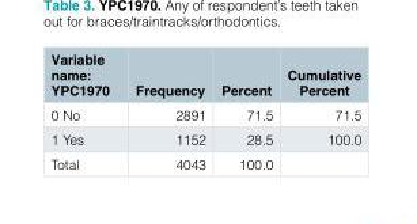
<table><thead><tr><td>Variable name: YPC1970</td><td>Frequency</td><td>Percent</td><td>Cumulative Percent</td></tr></thead><tbody><tr><td>0 No</td><td>2891</td><td>71.5</td><td>71.5</td></tr><tr><td>1 Yes</td><td>1152</td><td>28.5</td><td>100.0</td></tr><tr><td>Total</td><td>4043</td><td>100.0</td><td></td></tr></tbody></table>